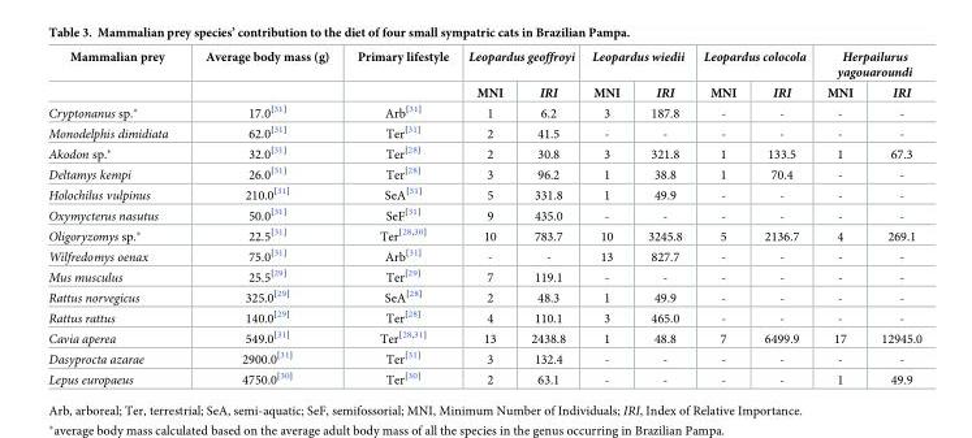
<table><thead><tr><td rowspan="2">Mammalian prey</td><td rowspan="2">Average body mass (g)</td><td rowspan="2">Primary lifestyle</td><td colspan="2">Leopardus geoffroyi</td><td colspan="2">Leopardus wiedii</td><td colspan="2">Leopardus colocola</td><td colspan="2">Herpailurus yagouaroundi</td></tr><tr><td>MNI</td><td>IRI</td><td>MNI</td><td>IRI</td><td>MNI</td><td>IRI</td><td>MNI</td><td>IRI</td></tr></thead><tbody><tr><td>Cryptonanus sp.*</td><td>17.0<sup>[31]</sup></td><td>Arb<sup>[31]</sup></td><td>1</td><td>6.2</td><td>3</td><td>187.8</td><td>-</td><td>-</td><td>-</td><td>-</td></tr><tr><td>Monodelphis dimidiata</td><td>62.0<sup>[31]</sup></td><td>Ter<sup>[31]</sup></td><td>2</td><td>41.5</td><td>-</td><td>-</td><td>-</td><td>-</td><td>-</td><td>-</td></tr><tr><td>Akodon sp.*</td><td>32.0<sup>[31]</sup></td><td>Ter<sup>[28]</sup></td><td>2</td><td>30.8</td><td>3</td><td>321.8</td><td>1</td><td>133.5</td><td>1</td><td>67.3</td></tr><tr><td>Deltamys kempi</td><td>26.0<sup>[31]</sup></td><td>Ter<sup>[28]</sup></td><td>3</td><td>96.2</td><td>1</td><td>38.8</td><td>1</td><td>70.4</td><td>-</td><td>-</td></tr><tr><td>Holochilus vulpinus</td><td>210.0<sup>[31]</sup></td><td>SeA<sup>[31]</sup></td><td>5</td><td>331.8</td><td>1</td><td>49.9</td><td>-</td><td>-</td><td>-</td><td>-</td></tr><tr><td>Oxymycterus nasutus</td><td>50.0<sup>[31]</sup></td><td>SeF<sup>[31]</sup></td><td>9</td><td>435.0</td><td>-</td><td>-</td><td>-</td><td>-</td><td>-</td><td>-</td></tr><tr><td>Oligoryzomys sp.*</td><td>22.5<sup>[31]</sup></td><td>Ter<sup>[28,30]</sup></td><td>10</td><td>783.7</td><td>10</td><td>3245.8</td><td>5</td><td>2136.7</td><td>4</td><td>269.1</td></tr><tr><td>Wilfredomys oenax</td><td>75.0<sup>[31]</sup></td><td>Arb<sup>[31]</sup></td><td>-</td><td>-</td><td>13</td><td>827.7</td><td>-</td><td>-</td><td>-</td><td>-</td></tr><tr><td>Mus musculus</td><td>25.5<sup>[29]</sup></td><td>Ter<sup>[29]</sup></td><td>7</td><td>119.1</td><td>-</td><td>-</td><td>-</td><td>-</td><td>-</td><td>-</td></tr><tr><td>Rattus norvegicus</td><td>325.0<sup>[29]</sup></td><td>SeA<sup>[28]</sup></td><td>2</td><td>48.3</td><td>1</td><td>49.9</td><td>-</td><td>-</td><td>-</td><td>-</td></tr><tr><td>Rattus rattus</td><td>140.0<sup>[29]</sup></td><td>Ter<sup>[28]</sup></td><td>4</td><td>110.1</td><td>3</td><td>465.0</td><td>-</td><td>-</td><td>-</td><td>-</td></tr><tr><td>Cavia aperea</td><td>549.0<sup>[31]</sup></td><td>Ter<sup>[28,31]</sup></td><td>13</td><td>2438.8</td><td>1</td><td>48.8</td><td>7</td><td>6499.9</td><td>17</td><td>12945.0</td></tr><tr><td>Dasyprocta azarae</td><td>2900.0<sup>[31]</sup></td><td>Ter<sup>[31]</sup></td><td>3</td><td>132.4</td><td>-</td><td>-</td><td>-</td><td>-</td><td>-</td><td>-</td></tr><tr><td>Lepus europaeus</td><td>4750.0<sup>[30]</sup></td><td>Ter<sup>[30]</sup></td><td>2</td><td>63.1</td><td>-</td><td>-</td><td>-</td><td>-</td><td>1</td><td>49.9</td></tr></tbody></table>